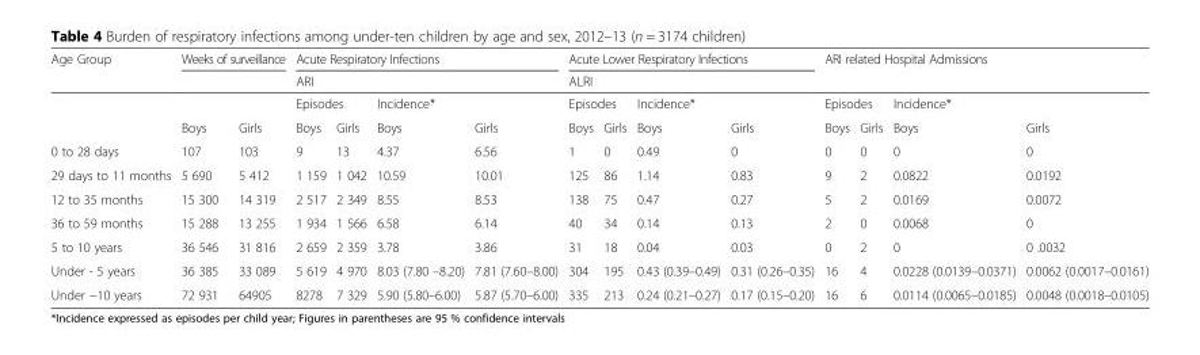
<table><thead><tr><td rowspan="4">Age Group</td><td colspan="2">Weeks of surveillance</td><td rowspan="2" colspan="4">Acute Respiratory Infections ARI</td><td rowspan="2" colspan="4">Acute Lower Respiratory Infections ALRI</td><td rowspan="2" colspan="4">ARI related Hospital Admissions</td></tr><tr><td></td><td></td></tr><tr><td colspan="2"></td><td colspan="2">Episodes</td><td colspan="2">Incidence*</td><td colspan="2">Episodes</td><td colspan="2">Incidence*</td><td colspan="2">Episodes</td><td colspan="2">Incidence*</td></tr><tr><td>Boys</td><td>Girls</td><td>Boys</td><td>Girls</td><td>Boys</td><td>Girls</td><td>Boys</td><td>Girls</td><td>Boys</td><td>Girls</td><td>Boys</td><td>Girls</td><td>Boys</td><td>Girls</td></tr></thead><tbody><tr><td>0 to 28 days</td><td>107</td><td>103</td><td>9</td><td>13</td><td>4.37</td><td>6.56</td><td>1</td><td>0</td><td>0.49</td><td>0</td><td>0</td><td>0</td><td>0</td><td>0</td></tr><tr><td>29 days to 11 months</td><td>5 690</td><td>5 412</td><td>1 159</td><td>1 042</td><td>10.59</td><td>10.01</td><td>125</td><td>86</td><td>1.14</td><td>0.83</td><td>9</td><td>2</td><td>0.0822</td><td>0.0192</td></tr><tr><td>12 to 35 months</td><td>15 300</td><td>14 319</td><td>2 517</td><td>2 349</td><td>8.55</td><td>8.53</td><td>138</td><td>75</td><td>0.47</td><td>0.27</td><td>5</td><td>2</td><td>0.0169</td><td>0.0072</td></tr><tr><td>36 to 59 months</td><td>15 288</td><td>13 255</td><td>1 934</td><td>1 566</td><td>6.58</td><td>6.14</td><td>40</td><td>34</td><td>0.14</td><td>0.13</td><td>2</td><td>0</td><td>0.0068</td><td>0</td></tr><tr><td>5 to 10 years</td><td>36 546</td><td>31 816</td><td>2 659</td><td>2 359</td><td>3.78</td><td>3.86</td><td>31</td><td>18</td><td>0.04</td><td>0.03</td><td>0</td><td>2</td><td>0</td><td>0 .0032</td></tr><tr><td>Under - 5 years</td><td>36 385</td><td>33 089</td><td>5 619</td><td>4 970</td><td>8.03 (7.80 –8.20)</td><td>7.81 (7.60–8.00)</td><td>304</td><td>195</td><td>0.43 (0.39–0.49)</td><td>0.31 (0.26–0.35)</td><td>16</td><td>4</td><td>0.0228 (0.0139–0.0371)</td><td>0.0062 (0.0017–0.0161)</td></tr><tr><td>Under −10 years</td><td>72 931</td><td>64905</td><td>8278</td><td>7 329</td><td>5.90 (5.80–6.00)</td><td>5.87 (5.70–6.00)</td><td>335</td><td>213</td><td>0.24 (0.21–0.27)</td><td>0.17 (0.15–0.20)</td><td>16</td><td>6</td><td>0.0114 (0.0065–0.0185)</td><td>0.0048 (0.0018–0.0105)</td></tr></tbody></table>